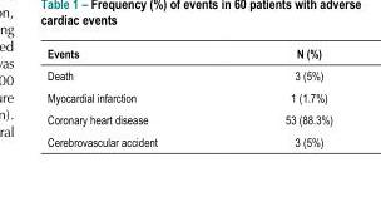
<table><thead><tr><td>Events</td><td>N (%)</td></tr></thead><tbody><tr><td>Death</td><td>3 (5%)</td></tr><tr><td>Myocardial infarction</td><td>1 (1.7%)</td></tr><tr><td>Coronary heart disease</td><td>53 (88.3%)</td></tr><tr><td>Cerebrovascular accident</td><td>3 (5%)</td></tr></tbody></table>